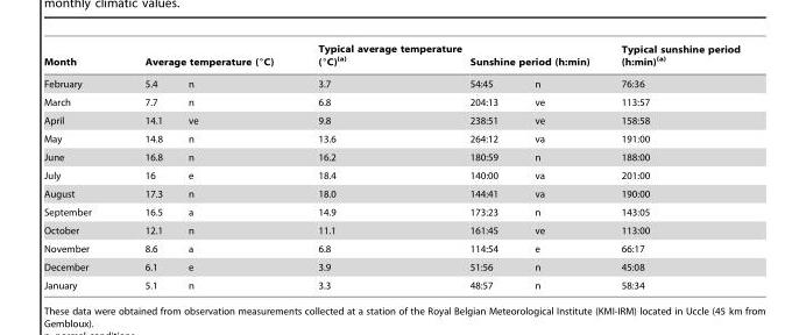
<table><thead><tr><td rowspan="2">Month February</td><td colspan="2">Average temperature (°C)</td><td rowspan="2">Typical average temperature (°C)(a) 3.7</td><td colspan="2">Sunshine period (h:min)</td><td rowspan="2">Typical sunshine period (h:min)(a) 76:36</td></tr><tr><td>5.4</td><td>n</td><td>54:45</td><td>n</td></tr></thead><tbody><tr><td>March</td><td>7.7</td><td>n</td><td>6.8</td><td>204:13</td><td>ve</td><td>113:57</td></tr><tr><td>April</td><td>14.1</td><td>ve</td><td>9.8</td><td>238:51</td><td>ve</td><td>158:58</td></tr><tr><td>May</td><td>14.8</td><td>n</td><td>13.6</td><td>264:12</td><td>va</td><td>191:00</td></tr><tr><td>June</td><td>16.8</td><td>n</td><td>16.2</td><td>180:59</td><td>n</td><td>188:00</td></tr><tr><td>July</td><td>16</td><td>e</td><td>18.4</td><td>140:00</td><td>va</td><td>201:00</td></tr><tr><td>August</td><td>17.3</td><td>n</td><td>18.0</td><td>144:41</td><td>va</td><td>190:00</td></tr><tr><td>September</td><td>16.5</td><td>a</td><td>14.9</td><td>173:23</td><td>n</td><td>143:05</td></tr><tr><td>October</td><td>12.1</td><td>n</td><td>11.1</td><td>161:45</td><td>ve</td><td>113:00</td></tr><tr><td>November</td><td>8.6</td><td>a</td><td>6.8</td><td>114:54</td><td>e</td><td>66:17</td></tr><tr><td>December</td><td>6.1</td><td>e</td><td>3.9</td><td>51:56</td><td>n</td><td>45:08</td></tr><tr><td>January</td><td>5.1</td><td>n</td><td>3.3</td><td>48:57</td><td>n</td><td>58:34</td></tr></tbody></table>